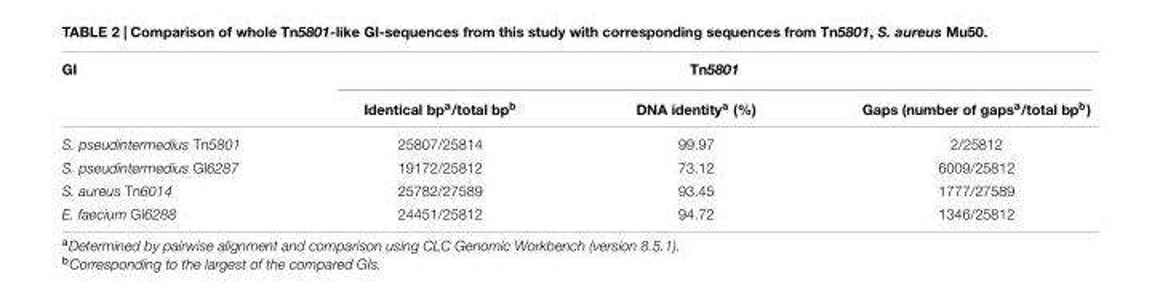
<table><thead><tr><td rowspan="2">GI</td><td colspan="3">Tn5801</td></tr><tr><td>Identical bp<sup>a</sup>/total bp<sup>b</sup></td><td>DNA identity<sup>a</sup> (%)</td><td>Gaps (number of gaps<sup>a</sup>/total bp<sup>b</sup>)</td></tr></thead><tbody><tr><td>S. pseudintermedius Tn5801</td><td>25807/25814</td><td>99.97</td><td>2/25812</td></tr><tr><td>S. pseudintermedius GI6287</td><td>19172/25812</td><td>73.12</td><td>6009/25812</td></tr><tr><td>S. aureus Tn6014</td><td>25782/27589</td><td>93.45</td><td>1777/27589</td></tr><tr><td>E. faecium GI6288</td><td>24451/25812</td><td>94.72</td><td>1346/25812</td></tr></tbody></table>